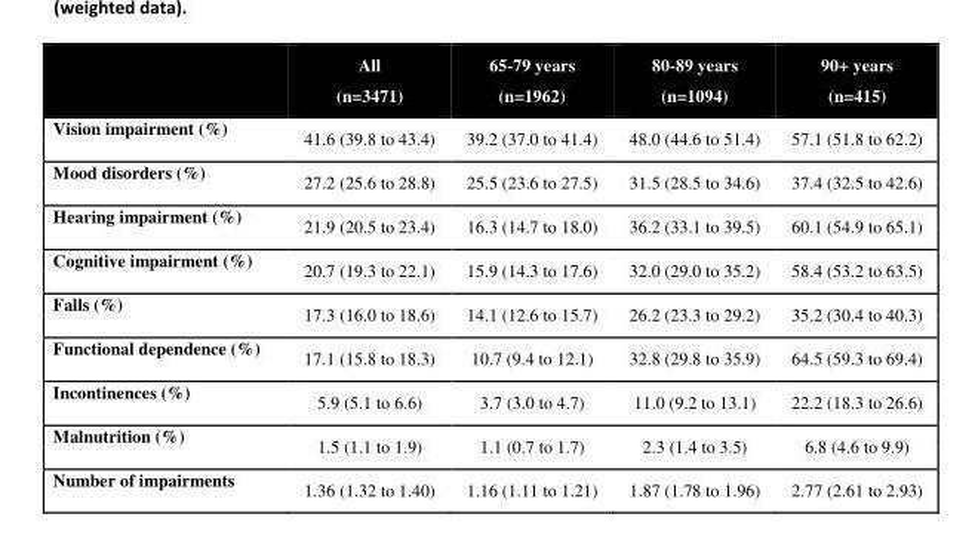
<table><thead><tr><td></td><td>All (n=3471)</td><td>65-79 years (n=1962)</td><td>80-89 years (n=1094)</td><td>90+ years (n=415)</td></tr></thead><tbody><tr><td>Vision impairment (%)</td><td>41.6 (39.8 to 43.4)</td><td>39.2 (37.0 to 41.4)</td><td>48.0 (44.6 to 51.4)</td><td>57.1 (51.8 to 62.2)</td></tr><tr><td>Mood disorders (%)</td><td>27.2 (25.6 to 28.8)</td><td>25.5 (23.6 to 27.5)</td><td>31.5 (28.5 to 34.6)</td><td>37.4 (32.5 to 42.6)</td></tr><tr><td>Hearing impairment (%)</td><td>21.9 (20.5 to 23.4)</td><td>16.3 (14.7 to 18.0)</td><td>36.2 (33.1 to 39.5)</td><td>60.1 (54.9 to 65.1)</td></tr><tr><td>Cognitive impairment (%)</td><td>20.7 (19.3 to 22.1)</td><td>15.9 (14.3 to 17.6)</td><td>32.0 (29.0 to 35.2)</td><td>58.4 (53.2 to 63.5)</td></tr><tr><td>Falls (%)</td><td>17.3 (16.0 to 18.6)</td><td>14.1 (12.6 to 15.7)</td><td>26.2 (23.3 to 29.2)</td><td>35.2 (30.4 to 40.3)</td></tr><tr><td>Functional dependence (%)</td><td>17.1 (15.8 to 18.3)</td><td>10.7 (9.4 to 12.1)</td><td>32.8 (29.8 to 35.9)</td><td>64.5 (59.3 to 69.4)</td></tr><tr><td>Incontinences (%)</td><td>5.9 (5.1 to 6.6)</td><td>3.7 (3.0 to 4.7)</td><td>11.0 (9.2 to 13.1)</td><td>22.2 (18.3 to 26.6)</td></tr><tr><td>Malnutrition (%)</td><td>1.5 (1.1 to 1.9)</td><td>1.1 (0.7 to 1.7)</td><td>2.3 (1.4 to 3.5)</td><td>6.8 (4.6 to 9.9)</td></tr><tr><td>Number of impairments</td><td>1.36 (1.32 to 1.40)</td><td>1.16 (1.11 to 1.21)</td><td>1.87 (1.78 to 1.96)</td><td>2.77 (2.61 to 2.93)</td></tr></tbody></table>